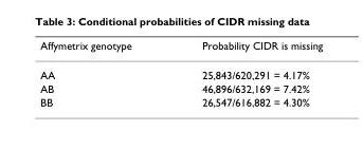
<table><thead><tr><td>Affymetrix genotype</td><td>Probability CIDR is missing</td></tr></thead><tbody><tr><td>AA</td><td>25,843/620,291 = 4.17%</td></tr><tr><td>AB</td><td>46,896/632,169 = 7.42%</td></tr><tr><td>BB</td><td>26,547/616,882 = 4.30%</td></tr></tbody></table>